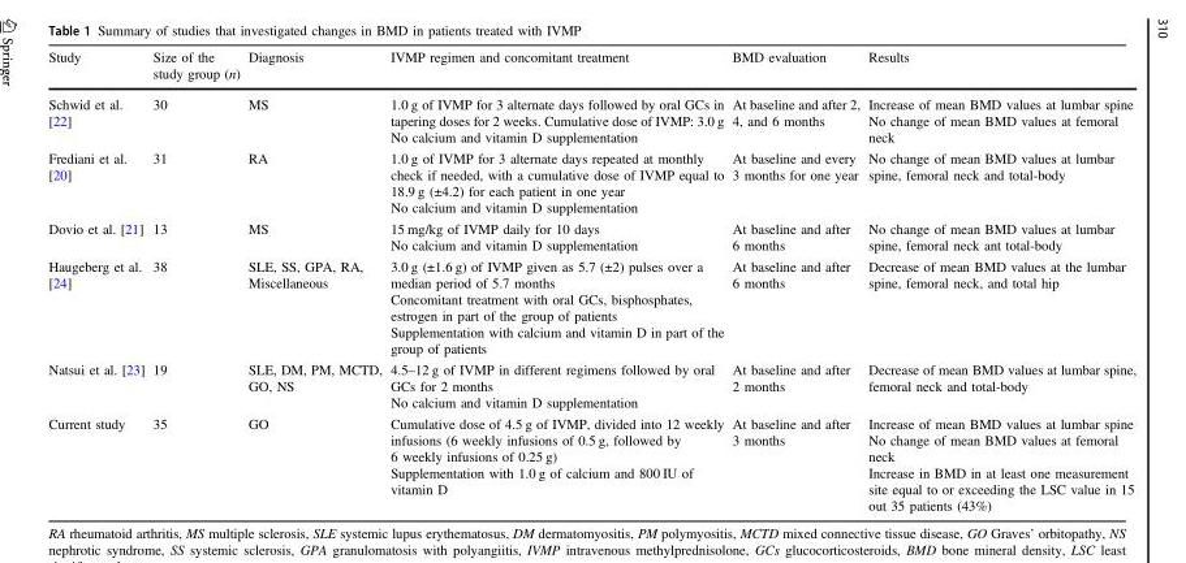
<table><thead><tr><td>Study</td><td>Size of the study group (n)</td><td>Diagnosis</td><td>IVMP regimen and concomitant treatment</td><td>BMD evaluation</td><td>Results</td></tr></thead><tbody><tr><td>Schwid et al. [22]</td><td>30</td><td>MS</td><td>1.0 g of IVMP for 3 alternate days followed by oral GCs in tapering doses for 2 weeks. Cumulative dose of IVMP: 3.0 g No calcium and vitamin D supplementation</td><td>At baseline and after 2, 4, and 6 months</td><td>Increase of mean BMD values at lumbar spine No change of mean BMD values at femoral neck</td></tr><tr><td>Frediani et al. [20]</td><td>31</td><td>RA</td><td>1.0 g of IVMP for 3 alternate days repeated at monthly check if needed, with a cumulative dose of IVMP equal to 18.9 g (±4.2) for each patient in one year No calcium and vitamin D supplementation</td><td>At baseline and every 3 months for one year</td><td>No change of mean BMD values at lumbar spine, femoral neck and total-body</td></tr><tr><td>Dovio et al. [21]</td><td>13</td><td>MS</td><td>15 mg/kg of IVMP daily for 10 days No calcium and vitamin D supplementation</td><td>At baseline and after 6 months</td><td>No change of mean BMD values at lumbar spine, femoral neck ant total-body</td></tr><tr><td>Haugeberg et al. [24]</td><td>38</td><td>SLE, SS, GPA, RA, Miscellaneous</td><td>3.0 g (±1.6 g) of IVMP given as 5.7 (±2) pulses over a median period of 5.7 months Concomitant treatment with oral GCs, bisphosphates, estrogen in part of the group of patients Supplementation with calcium and vitamin D in part of the group of patients</td><td>At baseline and after 6 months</td><td>Decrease of mean BMD values at the lumbar spine, femoral neck, and total hip</td></tr><tr><td>Natsui et al. [23]</td><td>19</td><td>SLE, DM, PM, MCTD, GO, NS</td><td>4.5–12 g of IVMP in different regimens followed by oral GCs for 2 months No calcium and vitamin D supplementation</td><td>At baseline and after 2 months</td><td>Decrease of mean BMD values at lumbar spine, femoral neck and total-body</td></tr><tr><td>Current study</td><td>35</td><td>GO</td><td>Cumulative dose of 4.5 g of IVMP, divided into 12 weekly infusions (6 weekly infusions of 0.5 g, followed by 6 weekly infusions of 0.25 g) Supplementation with 1.0 g of calcium and 800 IU of vitamin D</td><td>At baseline and after 3 months</td><td>Increase of mean BMD values at lumbar spine No change of mean BMD values at femoral neck Increase in BMD in at least one measurement site equal to or exceeding the LSC value in 15 out 35 patients (43%)</td></tr></tbody></table>